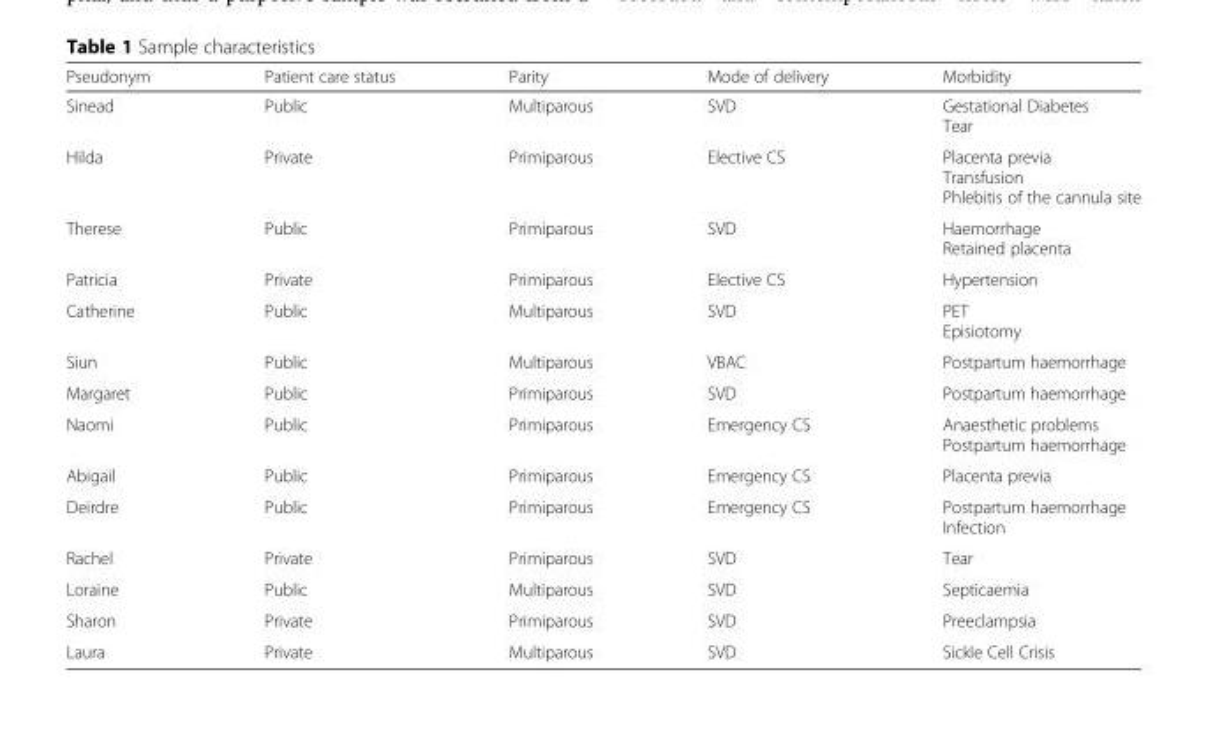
<table><thead><tr><td>Pseudonym</td><td>Patient care status</td><td>Parity</td><td>Mode of delivery</td><td>Morbidity</td></tr></thead><tbody><tr><td>Sinead</td><td>Public</td><td>Multiparous</td><td>SVD</td><td>Gestational Diabetes Tear</td></tr><tr><td>Hilda</td><td>Private</td><td>Primiparous</td><td>Elective CS</td><td>Placenta previa Transfusion Phlebitis of the cannula site</td></tr><tr><td>Therese</td><td>Public</td><td>Primiparous</td><td>SVD</td><td>Haemorrhage Retained placenta</td></tr><tr><td>Patricia</td><td>Private</td><td>Primiparous</td><td>Elective CS</td><td>Hypertension</td></tr><tr><td>Catherine</td><td>Public</td><td>Multiparous</td><td>SVD</td><td>PET Episiotomy</td></tr><tr><td>Siun</td><td>Public</td><td>Multiparous</td><td>VBAC</td><td>Postpartum haemorrhage</td></tr><tr><td>Margaret</td><td>Public</td><td>Primiparous</td><td>SVD</td><td>Postpartum haemorrhage</td></tr><tr><td>Naomi</td><td>Public</td><td>Primiparous</td><td>Emergency CS</td><td>Anaesthetic problems Postpartum haemorrhage</td></tr><tr><td>Abigail</td><td>Public</td><td>Primiparous</td><td>Emergency CS</td><td>Placenta previa</td></tr><tr><td>Deirdre</td><td>Public</td><td>Primiparous</td><td>Emergency CS</td><td>Postpartum haemorrhage Infection</td></tr><tr><td>Rachel</td><td>Private</td><td>Primiparous</td><td>SVD</td><td>Tear</td></tr><tr><td>Loraine</td><td>Public</td><td>Multiparous</td><td>SVD</td><td>Septicaemia</td></tr><tr><td>Sharon</td><td>Private</td><td>Primiparous</td><td>SVD</td><td>Preeclampsia</td></tr><tr><td>Laura</td><td>Private</td><td>Multiparous</td><td>SVD</td><td>Sickle Cell Crisis</td></tr></tbody></table>